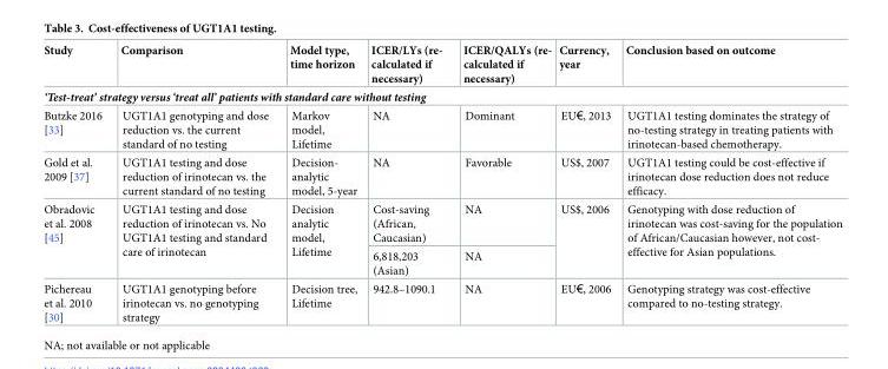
<table><thead><tr><td>Study</td><td>Comparison</td><td>Model type, time horizon</td><td>ICER/LYs (re- calculated if necessary)</td><td>ICER/QALYs (re- calculated if necessary)</td><td>Currency, year</td><td>Conclusion based on outcome</td></tr></thead><tbody><tr><td colspan="7">‘Test-treat’ strategy versus ‘treat all’ patients with standard care without testing</td></tr><tr><td>Butzke 2016 [33]</td><td>UGT1A1 genotyping and dose reduction vs. the current standard of no testing</td><td>Markov model, Lifetime</td><td>NA</td><td>Dominant</td><td>EU€, 2013</td><td>UGT1A1 testing dominates the strategy of no-testing strategy in treating patients with irinotecan-based chemotherapy.</td></tr><tr><td>Gold et al. 2009 [37]</td><td>UGT1A1 testing and dose reduction of irinotecan vs. the current standard of no testing</td><td>Decision- analytic model, 5-year</td><td>NA</td><td>Favorable</td><td>US$, 2007</td><td>UGT1A1 testing could be cost-effective if irinotecan dose reduction does not reduce efficacy.</td></tr><tr><td rowspan="2">Obradovic et al. 2008 [45]</td><td rowspan="2">UGT1A1 testing and dose reduction of irinotecan vs. No UGT1A1 testing and standard care of irinotecan</td><td rowspan="2">Decision analytic model, Lifetime</td><td>Cost-saving (African, Caucasian)</td><td>NA</td><td rowspan="2">US$, 2006</td><td rowspan="2">Genotyping with dose reduction of irinotecan was cost-saving for the population of African/Caucasian however, not cost- effective for Asian populations.</td></tr><tr><td>6,818,203 (Asian)</td><td>NA</td></tr><tr><td>Pichereau et al. 2010 [30]</td><td>UGT1A1 genotyping before irinotecan vs. no genotyping strategy</td><td>Decision tree, Lifetime</td><td>942.8–1090.1</td><td>NA</td><td>EU€, 2006</td><td>Genotyping strategy was cost-effective compared to no-testing strategy.</td></tr></tbody></table>